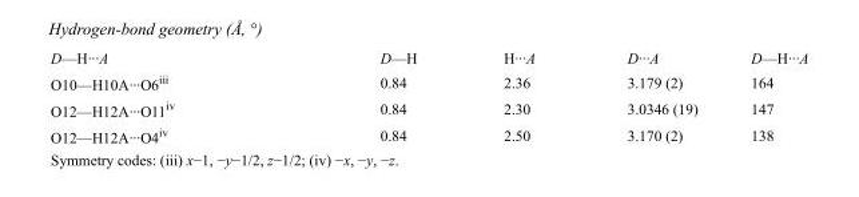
<table><tbody><tr><td>D—H···A</td><td>D—H</td><td>H···A</td><td>D···A</td><td>D—H···A</td></tr><tr><td>O10—H10A···O6<sup>iii</sup></td><td>0.84</td><td>2.36</td><td>3.179 (2)</td><td>164</td></tr><tr><td>O12—H12A···O11<sup>iv</sup></td><td>0.84</td><td>2.30</td><td>3.0346 (19)</td><td>147</td></tr><tr><td>O12—H12A···O4<sup>iv</sup></td><td>0.84</td><td>2.50</td><td>3.170 (2)</td><td>138</td></tr></tbody></table>